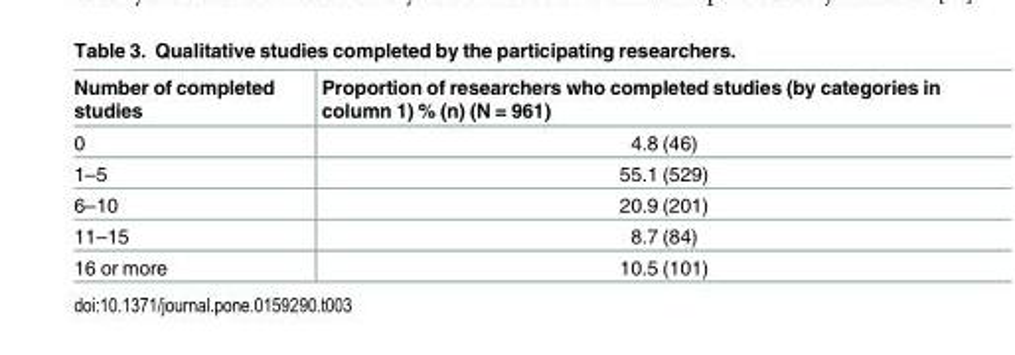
<table><thead><tr><td>Number of completed studies</td><td>Proportion of researchers who completed studies (by categories in column 1) % (n) (N = 961)</td></tr></thead><tbody><tr><td>0</td><td>4.8 (46)</td></tr><tr><td>1–5</td><td>55.1 (529)</td></tr><tr><td>6–10</td><td>20.9 (201)</td></tr><tr><td>11–15</td><td>8.7 (84)</td></tr><tr><td>16 or more</td><td>10.5 (101)</td></tr></tbody></table>